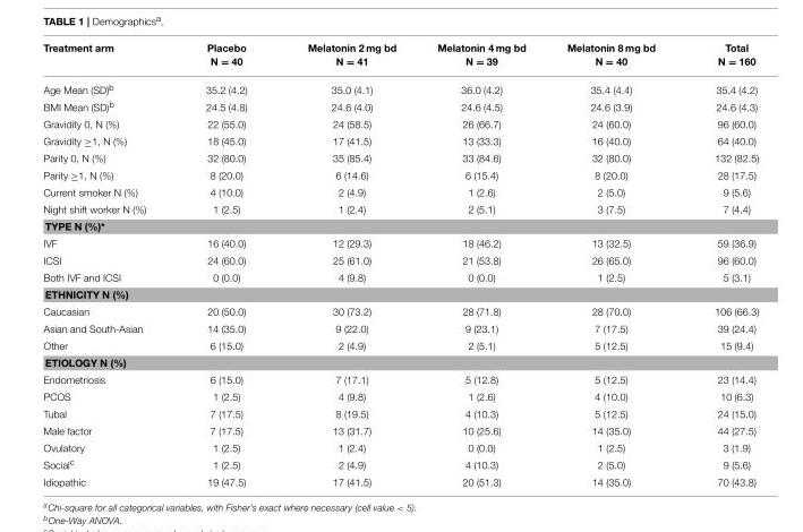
<table><thead><tr><td>Treatment arm</td><td>Placebo N = 40</td><td>Melatonin 2 mg bd N = 41</td><td>Melatonin 4 mg bd N = 39</td><td>Melatonin 8 mg bd N = 40</td><td>Total N = 160</td></tr></thead><tbody><tr><td>Age Mean (SD)<sup>b</sup></td><td>35.2 (4.2)</td><td>35.0 (4.1)</td><td>36.0 (4.2)</td><td>35.4 (4.4)</td><td>35.4 (4.2)</td></tr><tr><td>BMI Mean (SD)<sup>b</sup></td><td>24.5 (4.8)</td><td>24.6 (4.0)</td><td>24.6 (4.5)</td><td>24.6 (3.9)</td><td>24.6 (4.3)</td></tr><tr><td>Gravidity 0, N (%)</td><td>22 (55.0)</td><td>24 (58.5)</td><td>26 (66.7)</td><td>24 (60.0)</td><td>96 (60.0)</td></tr><tr><td>Gravidity ≥1, N (%)</td><td>18 (45.0)</td><td>17 (41.5)</td><td>13 (33.3)</td><td>16 (40.0)</td><td>64 (40.0)</td></tr><tr><td>Parity 0, N (%)</td><td>32 (80.0)</td><td>35 (85.4)</td><td>33 (84.6)</td><td>32 (80.0)</td><td>132 (82.5)</td></tr><tr><td>Parity ≥1, N (%)</td><td>8 (20.0)</td><td>6 (14.6)</td><td>6 (15.4)</td><td>8 (20.0)</td><td>28 (17.5)</td></tr><tr><td>Current smoker N (%)</td><td>4 (10.0)</td><td>2 (4.9)</td><td>1 (2.6)</td><td>2 (5.0)</td><td>9 (5.6)</td></tr><tr><td>Night shift worker N (%)</td><td>1 (2.5)</td><td>1 (2.4)</td><td>2 (5.1)</td><td>3 (7.5)</td><td>7 (4.4)</td></tr><tr><td colspan="6">TYPE N (%)*</td></tr><tr><td>IVF</td><td>16 (40.0)</td><td>12 (29.3)</td><td>18 (46.2)</td><td>13 (32.5)</td><td>59 (36.9)</td></tr><tr><td>ICSI</td><td>24 (60.0)</td><td>25 (61.0)</td><td>21 (53.8)</td><td>26 (65.0)</td><td>96 (60.0)</td></tr><tr><td>Both IVF and ICSI</td><td>0 (0.0)</td><td>4 (9.8)</td><td>0 (0.0)</td><td>1 (2.5)</td><td>5 (3.1)</td></tr><tr><td colspan="6">ETHNICITY N (%)</td></tr><tr><td>Caucasian</td><td>20 (50.0)</td><td>30 (73.2)</td><td>28 (71.8)</td><td>28 (70.0)</td><td>106 (66.3)</td></tr><tr><td>Asian and South-Asian</td><td>14 (35.0)</td><td>9 (22.0)</td><td>9 (23.1)</td><td>7 (17.5)</td><td>39 (24.4)</td></tr><tr><td>Other</td><td>6 (15.0)</td><td>2 (4.9)</td><td>2 (5.1)</td><td>5 (12.5)</td><td>15 (9.4)</td></tr><tr><td colspan="6">ETIOLOGY N (%)</td></tr><tr><td>Endometriosis</td><td>6 (15.0)</td><td>7 (17.1)</td><td>5 (12.8)</td><td>5 (12.5)</td><td>23 (14.4)</td></tr><tr><td>PCOS</td><td>1 (2.5)</td><td>4 (9.8)</td><td>1 (2.6)</td><td>4 (10.0)</td><td>10 (6.3)</td></tr><tr><td>Tubal</td><td>7 (17.5)</td><td>8 (19.5)</td><td>4 (10.3)</td><td>5 (12.5)</td><td>24 (15.0)</td></tr><tr><td>Male factor</td><td>7 (17.5)</td><td>13 (31.7)</td><td>10 (25.6)</td><td>14 (35.0)</td><td>44 (27.5)</td></tr><tr><td>Ovulatory</td><td>1 (2.5)</td><td>1 (2.4)</td><td>0 (0.0)</td><td>1 (2.5)</td><td>3 (1.9)</td></tr><tr><td>Social<sup>c</sup></td><td>1 (2.5)</td><td>2 (4.9)</td><td>4 (10.3)</td><td>2 (5.0)</td><td>9 (5.6)</td></tr><tr><td>Idiopathic</td><td>19 (47.5)</td><td>17 (41.5)</td><td>20 (51.3)</td><td>14 (35.0)</td><td>70 (43.8)</td></tr></tbody></table>